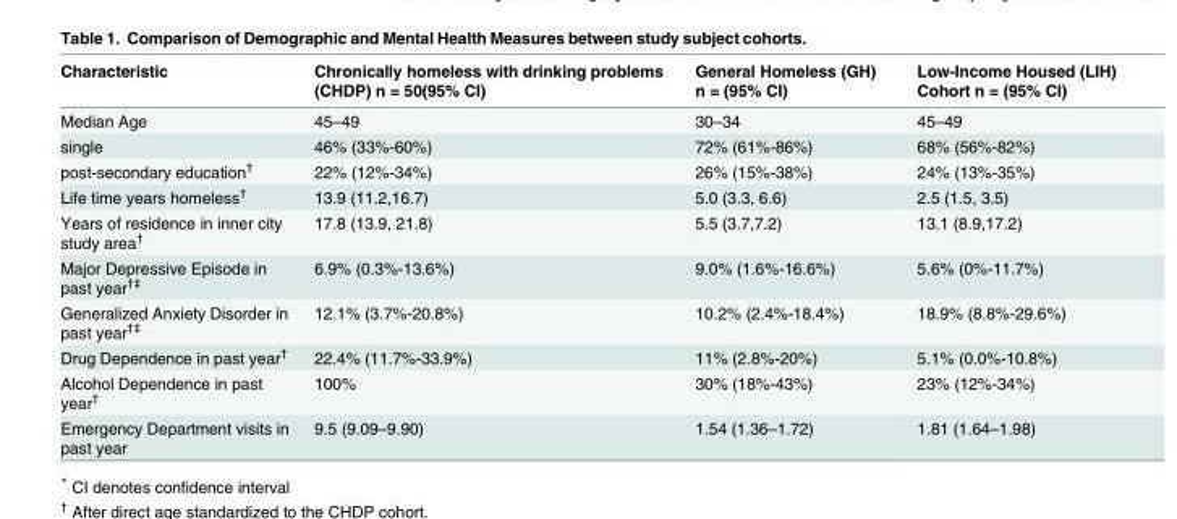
<table><thead><tr><td>Characteristic</td><td>Chronically homeless with drinking problems (CHDP) n = 50(95% CI)</td><td>General Homeless (GH) n = (95% CI)</td><td>Low-Income Housed (LIH) Cohort n = (95% CI)</td></tr></thead><tbody><tr><td>Median Age</td><td>45–49</td><td>30–34</td><td>45–49</td></tr><tr><td>single</td><td>46% (33%-60%)</td><td>72% (61%-86%)</td><td>68% (56%-82%)</td></tr><tr><td>post-secondary education<sup>†</sup></td><td>22% (12%-34%)</td><td>26% (15%-38%)</td><td>24% (13%-35%)</td></tr><tr><td>Life time years homeless<sup>†</sup></td><td>13.9 (11.2,16.7)</td><td>5.0 (3.3, 6.6)</td><td>2.5 (1.5, 3.5)</td></tr><tr><td>Years of residence in inner city study area<sup>†</sup></td><td>17.8 (13.9, 21.8)</td><td>5.5 (3.7,7.2)</td><td>13.1 (8.9,17.2)</td></tr><tr><td>Major Depressive Episode in past year<sup>†‡</sup></td><td>6.9% (0.3%-13.6%)</td><td>9.0% (1.6%-16.6%)</td><td>5.6% (0%-11.7%)</td></tr><tr><td>Generalized Anxiety Disorder in past year<sup>†‡</sup></td><td>12.1% (3.7%-20.8%)</td><td>10.2% (2.4%-18.4%)</td><td>18.9% (8.8%-29.6%)</td></tr><tr><td>Drug Dependence in past year<sup>†</sup></td><td>22.4% (11.7%-33.9%)</td><td>11% (2.8%-20%)</td><td>5.1% (0.0%-10.8%)</td></tr><tr><td>Alcohol Dependence in past year<sup>†</sup></td><td>100%</td><td>30% (18%-43%)</td><td>23% (12%-34%)</td></tr><tr><td>Emergency Department visits in past year</td><td>9.5 (9.09–9.90)</td><td>1.54 (1.36–1.72)</td><td>1.81 (1.64–1.98)</td></tr></tbody></table>